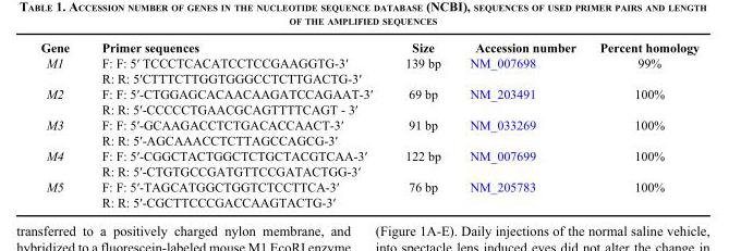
<table><thead><tr><td>Gene</td><td>Primer sequences</td><td>Size</td><td>Accession number</td><td>Percent homology</td></tr></thead><tbody><tr><td rowspan="2">M1</td><td>F: F: 5′ TCCCTCACATCCTCCGAAGGTG-3′</td><td>139 bp</td><td>NM_007698</td><td>99%</td></tr><tr><td>R: R: 5′CTTTCTTGGTGGGCCTCTTGACTG-3′</td><td></td><td></td><td></td></tr><tr><td rowspan="2">M2</td><td>F: F: 5′-CTGGAGCACAACAAGATCCAGAAT-3′</td><td>69 bp</td><td>NM_203491</td><td>100%</td></tr><tr><td>R: R: 5′-CCCCCTGAACGCAGTTTTCAGT - 3′</td><td></td><td></td><td></td></tr><tr><td rowspan="2">M3</td><td>F: F: 5′-GCAAGACCTCTGACACCAACT-3′</td><td>91 bp</td><td>NM_033269</td><td>100%</td></tr><tr><td>R: R: 5′-AGCAAACCTCTTAGCCAGCG-3′</td><td></td><td></td><td></td></tr><tr><td rowspan="2">M4</td><td>F: F: 5′-CGGCTACTGGCTCTGCTACGTCAA-3′</td><td>122 bp</td><td>NM_007699</td><td>100%</td></tr><tr><td>R: R: 5′-CTGTGCCGATGTTCCGATACTGG-3′</td><td></td><td></td><td></td></tr><tr><td rowspan="2">M5</td><td>F: F: 5′-TAGCATGGCTGGTCTCCTTCA-3′</td><td>76 bp</td><td>NM_205783</td><td>100%</td></tr><tr><td>R: R: 5′-CGCTTCCCGACCAAGTACTG-3′</td><td></td><td></td><td></td></tr></tbody></table>